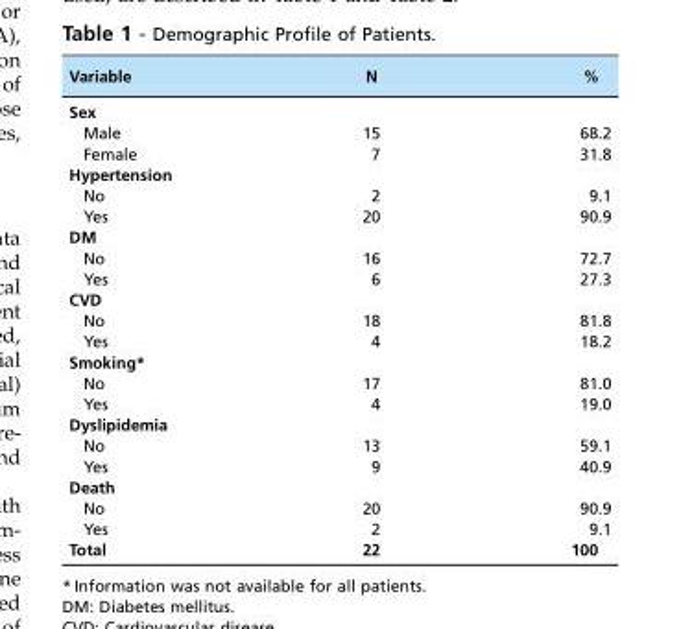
<table><thead><tr><td>Variable</td><td>N</td><td>%</td></tr></thead><tbody><tr><td colspan="3">Sex</td></tr><tr><td>Male</td><td>15</td><td>68.2</td></tr><tr><td>Female</td><td>7</td><td>31.8</td></tr><tr><td colspan="3">Hypertension</td></tr><tr><td>No</td><td>2</td><td>9.1</td></tr><tr><td>Yes</td><td>20</td><td>90.9</td></tr><tr><td colspan="3">DM</td></tr><tr><td>No</td><td>16</td><td>72.7</td></tr><tr><td>Yes</td><td>6</td><td>27.3</td></tr><tr><td colspan="3">CVD</td></tr><tr><td>No</td><td>18</td><td>81.8</td></tr><tr><td>Yes</td><td>4</td><td>18.2</td></tr><tr><td colspan="3">Smoking*</td></tr><tr><td>No</td><td>17</td><td>81.0</td></tr><tr><td>Yes</td><td>4</td><td>19.0</td></tr><tr><td colspan="3">Dyslipidemia</td></tr><tr><td>No</td><td>13</td><td>59.1</td></tr><tr><td>Yes</td><td>9</td><td>40.9</td></tr><tr><td colspan="3">Death</td></tr><tr><td>No</td><td>20</td><td>90.9</td></tr><tr><td>Yes</td><td>2</td><td>9.1</td></tr><tr><td>Total</td><td>22</td><td>100</td></tr></tbody></table>